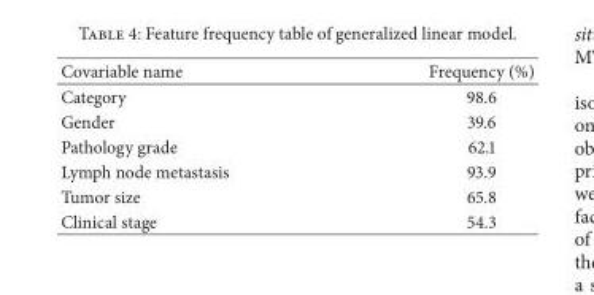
<table><thead><tr><td>Covariable name</td><td>Frequency (%)</td></tr></thead><tbody><tr><td>Category</td><td>98.6</td></tr><tr><td>Gender</td><td>39.6</td></tr><tr><td>Pathology grade</td><td>62.1</td></tr><tr><td>Lymph node metastasis</td><td>93.9</td></tr><tr><td>Tumor size</td><td>65.8</td></tr><tr><td>Clinical stage</td><td>54.3</td></tr></tbody></table>